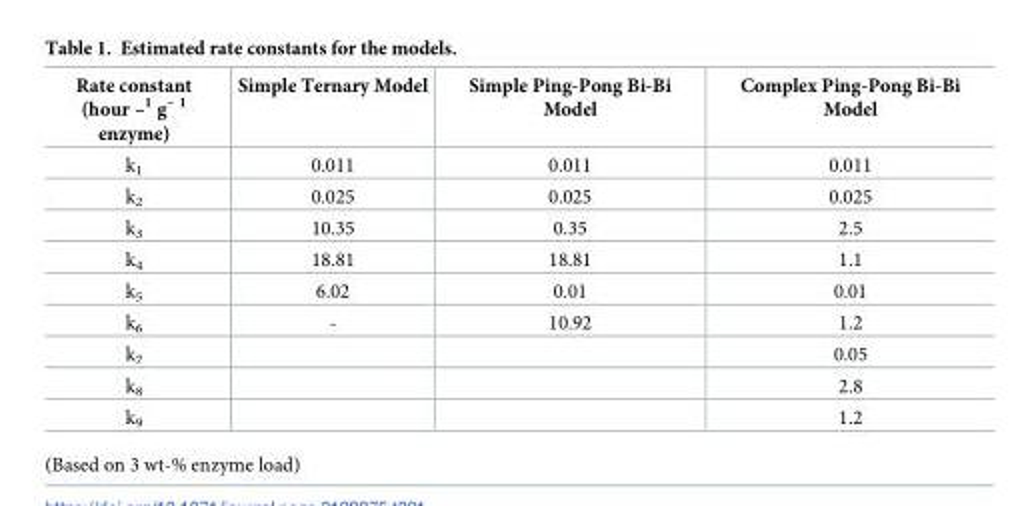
<table><thead><tr><td>Rate constant (hour –<sup>1</sup> g<sup>– 1</sup> enzyme)</td><td>Simple Ternary Model</td><td>Simple Ping-Pong Bi-Bi Model</td><td>Complex Ping-Pong Bi-Bi Model</td></tr></thead><tbody><tr><td>k<sub>1</sub></td><td>0.011</td><td>0.011</td><td>0.011</td></tr><tr><td>k<sub>2</sub></td><td>0.025</td><td>0.025</td><td>0.025</td></tr><tr><td>k<sub>3</sub></td><td>10.35</td><td>0.35</td><td>2.5</td></tr><tr><td>k<sub>4</sub></td><td>18.81</td><td>18.81</td><td>1.1</td></tr><tr><td>k<sub>5</sub></td><td>6.02</td><td>0.01</td><td>0.01</td></tr><tr><td>k<sub>6</sub></td><td>-</td><td>10.92</td><td>1.2</td></tr><tr><td>k<sub>7</sub></td><td></td><td></td><td>0.05</td></tr><tr><td>k<sub>8</sub></td><td></td><td></td><td>2.8</td></tr><tr><td>k<sub>9</sub></td><td></td><td></td><td>1.2</td></tr></tbody></table>